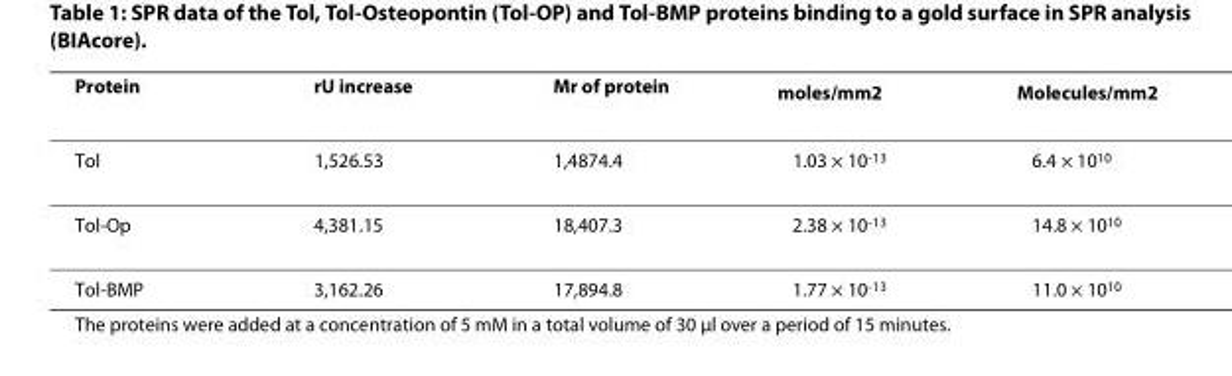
<table><thead><tr><td>Protein</td><td>rU increase</td><td>Mr of protein</td><td>moles/mm<sup>2</sup></td><td>Molecules/mm<sup>2</sup></td></tr></thead><tbody><tr><td>Tol</td><td>1,526.53</td><td>1,4874.4</td><td>1.03 × 10<sup>-13</sup></td><td>6.4 × 10<sup>10</sup></td></tr><tr><td>Tol-Op</td><td>4,381.15</td><td>18,407.3</td><td>2.38 × 10<sup>-13</sup></td><td>14.8 × 10<sup>10</sup></td></tr><tr><td>Tol-BMP</td><td>3,162.26</td><td>17,894.8</td><td>1.77 × 10<sup>-13</sup></td><td>11.0 × 10<sup>10</sup></td></tr></tbody></table>